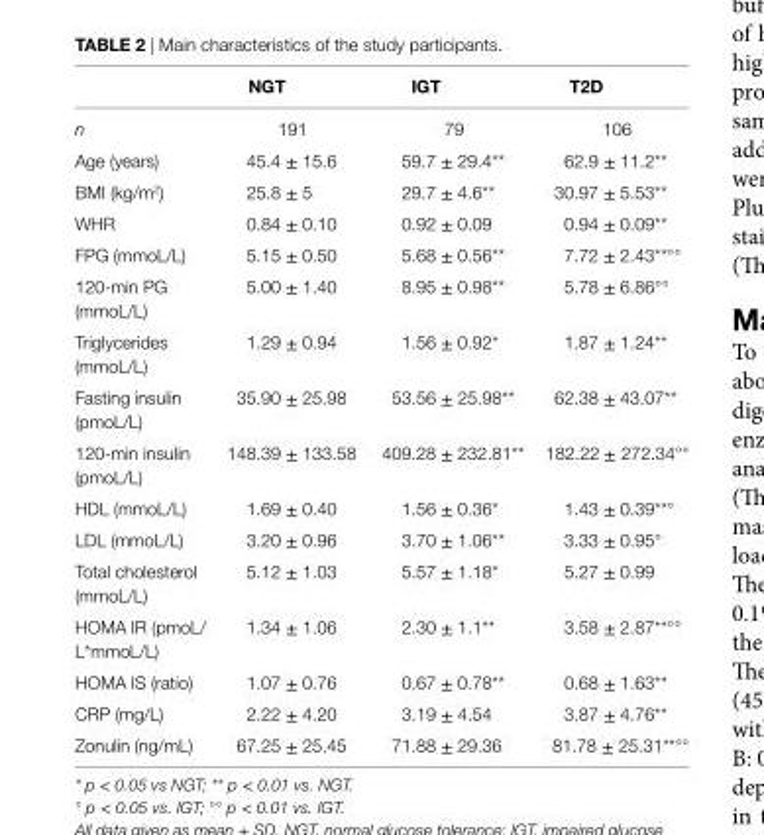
<table><thead><tr><td></td><td>ngT</td><td>igT</td><td>T2D</td></tr></thead><tbody><tr><td>n</td><td>191</td><td>79</td><td>106</td></tr><tr><td>Age (years)</td><td>45.4 ± 15.6</td><td>59.7 ± 29.4**</td><td>62.9 ± 11.2**</td></tr><tr><td>BMI (kg/m<sup>2</sup>)</td><td>25.8 ± 5</td><td>29.7 ± 4.6**</td><td>30.97 ± 5.53**</td></tr><tr><td>WHR</td><td>0.84 ± 0.10</td><td>0.92 ± 0.09</td><td>0.94 ± 0.09**</td></tr><tr><td>FPG (mmoL/L)</td><td>5.15 ± 0.50</td><td>5.68 ± 0.56**</td><td>7.72 ± 2.43**<sup>°°</sup></td></tr><tr><td>120-min PG (mmoL/L)</td><td>5.00 ± 1.40</td><td>8.95 ± 0.98**</td><td>5.78 ± 6.86°°</td></tr><tr><td>Triglycerides (mmoL/L)</td><td>1.29 ± 0.94</td><td>1.56 ± 0.92*</td><td>1.87 ± 1.24**</td></tr><tr><td>Fasting insulin (pmoL/L)</td><td>35.90 ± 25.98</td><td>53.56 ± 25.98**</td><td>62.38 ± 43.07**</td></tr><tr><td>120-min insulin (pmoL/L)</td><td>148.39 ± 133.58</td><td>409.28 ± 232.81**</td><td>182.22 ± 272.34°°</td></tr><tr><td>HDL (mmoL/L)</td><td>1.69 ± 0.40</td><td>1.56 ± 0.36*</td><td>1.43 ± 0.39**<sup>°</sup></td></tr><tr><td>LDL (mmoL/L)</td><td>3.20 ± 0.96</td><td>3.70 ± 1.06**</td><td>3.33 ± 0.95°</td></tr><tr><td>Total cholesterol (mmoL/L)</td><td>5.12 ± 1.03</td><td>5.57 ± 1.18*</td><td>5.27 ± 0.99</td></tr><tr><td>HOMA IR (pmoL/ L*mmoL/L)</td><td>1.34 ± 1.06</td><td>2.30 ± 1.1**</td><td>3.58 ± 2.87**<sup>°°</sup></td></tr><tr><td>HOMA IS (ratio)</td><td>1.07 ± 0.76</td><td>0.67 ± 0.78**</td><td>0.68 ± 1.63**</td></tr><tr><td>CRP (mg/L)</td><td>2.22 ± 4.20</td><td>3.19 ± 4.54</td><td>3.87 ± 4.76**</td></tr><tr><td>Zonulin (ng/mL)</td><td>67.25 ± 25.45</td><td>71.88 ± 29.36</td><td>81.78 ± 25.31**<sup>°°</sup></td></tr></tbody></table>